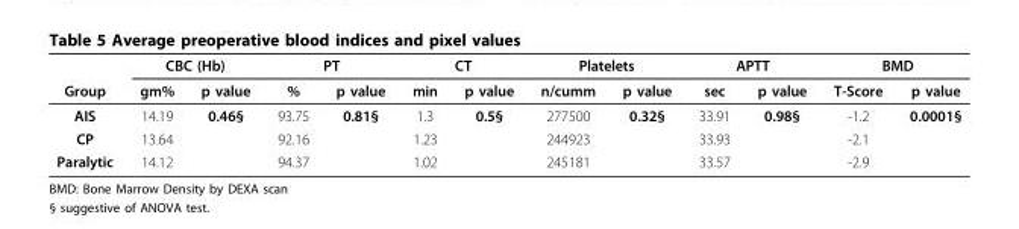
<table><thead><tr><td rowspan="2">Group</td><td colspan="2">CBC (Hb)</td><td colspan="2">PT</td><td colspan="2">CT</td><td colspan="2">Platelets</td><td colspan="2">APTT</td><td colspan="2">BMD</td></tr><tr><td>gm%</td><td>p value</td><td>%</td><td>p value</td><td>min</td><td>p value</td><td>n/cumm</td><td>p value</td><td>sec</td><td>p value</td><td>T-Score</td><td>p value</td></tr></thead><tbody><tr><td>AIS</td><td>14.19</td><td>0.46§</td><td>93.75</td><td>0.81§</td><td>1.3</td><td>0.5§</td><td>277500</td><td>0.32§</td><td>33.91</td><td>0.98§</td><td>-1.2</td><td>0.0001§</td></tr><tr><td>CP</td><td>13.64</td><td></td><td>92.16</td><td></td><td>1.23</td><td></td><td>244923</td><td></td><td>33.93</td><td></td><td>-2.1</td><td></td></tr><tr><td>Paralytic</td><td>14.12</td><td></td><td>94.37</td><td></td><td>1.02</td><td></td><td>245181</td><td></td><td>33.57</td><td></td><td>-2.9</td><td></td></tr></tbody></table>